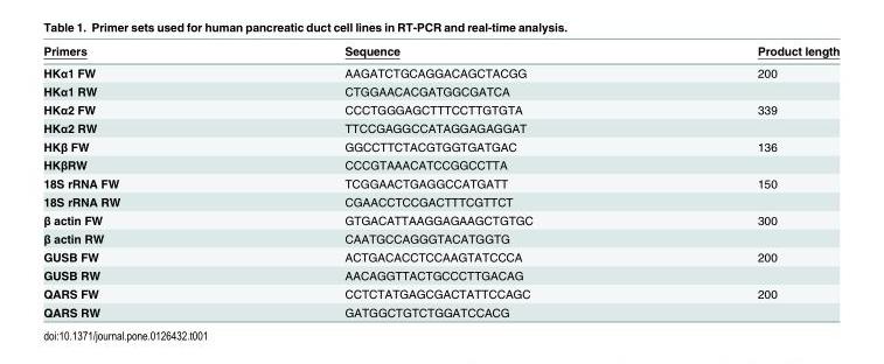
<table><thead><tr><td>Primers</td><td>Sequence</td><td>Product length</td></tr></thead><tbody><tr><td>HKα1 FW</td><td>AAGATCTGCAGGACAGCTACGG</td><td>200</td></tr><tr><td>HKα1 RW</td><td>CTGGAACACGATGGCGATCA</td><td></td></tr><tr><td>HKα2 FW</td><td>CCCTGGGAGCTTTCCTTGTGTA</td><td>339</td></tr><tr><td>HKα2 RW</td><td>TTCCGAGGCCATAGGAGAGGAT</td><td></td></tr><tr><td>HKβ FW</td><td>GGCCTTCTACGTGGTGATGAC</td><td>136</td></tr><tr><td>HKβRW</td><td>CCCGTAAACATCCGGCCTTA</td><td></td></tr><tr><td>18S rRNA FW</td><td>TCGGAACTGAGGCCATGATT</td><td>150</td></tr><tr><td>18S rRNA RW</td><td>CGAACCTCCGACTTTCGTTCT</td><td></td></tr><tr><td>β actin FW</td><td>GTGACATTAAGGAGAAGCTGTGC</td><td>300</td></tr><tr><td>β actin RW</td><td>CAATGCCAGGGTACATGGTG</td><td></td></tr><tr><td>GUSB FW</td><td>ACTGACACCTCCAAGTATCCCA</td><td>200</td></tr><tr><td>GUSB RW</td><td>AACAGGTTACTGCCCTTGACAG</td><td></td></tr><tr><td>QARS FW</td><td>CCTCTATGAGCGACTATTCCAGC</td><td>200</td></tr><tr><td>QARS RW</td><td>GATGGCTGTCTGGATCCACG</td><td></td></tr></tbody></table>